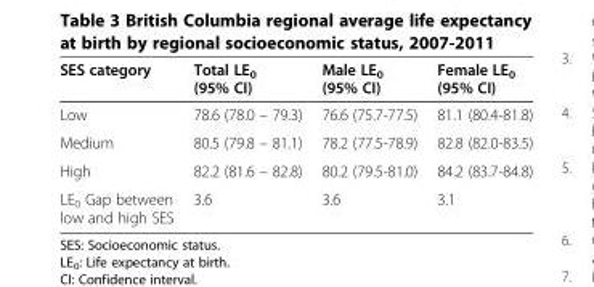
<table><thead><tr><td>SES category</td><td>Total LE<sub>0</sub> (95% CI)</td><td>Male LE<sub>0</sub> (95% CI)</td><td>Female LE<sub>0</sub> (95% CI)</td></tr></thead><tbody><tr><td>Low</td><td>78.6 (78.0 – 79.3)</td><td>76.6 (75.7-77.5)</td><td>81.1 (80.4-81.8)</td></tr><tr><td>Medium</td><td>80.5 (79.8 – 81.1)</td><td>78.2 (77.5-78.9)</td><td>82.8 (82.0-83.5)</td></tr><tr><td>High</td><td>82.2 (81.6 – 82.8)</td><td>80.2 (79.5-81.0)</td><td>84.2 (83.7-84.8)</td></tr><tr><td>LE<sub>0</sub> Gap between low and high SES</td><td>3.6</td><td>3.6</td><td>3.1</td></tr></tbody></table>